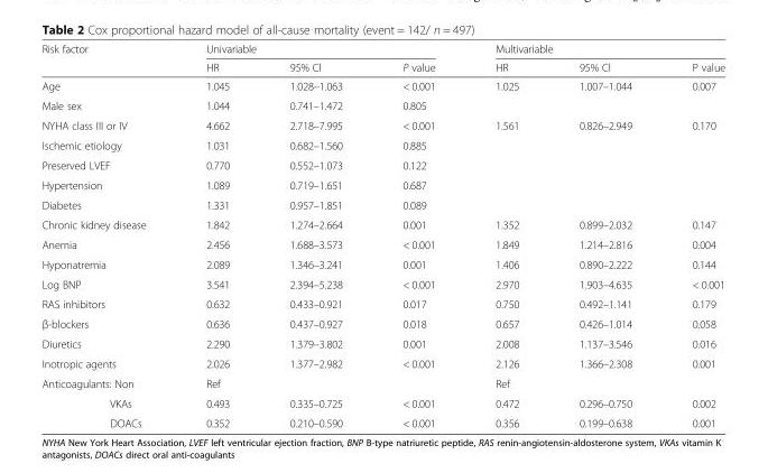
<table><thead><tr><td rowspan="2">Risk factor</td><td colspan="3">Univariable</td><td colspan="3">Multivariable</td></tr><tr><td>HR</td><td>95% Cl</td><td>P value</td><td>HR</td><td>95% Cl</td><td>P value</td></tr></thead><tbody><tr><td>Age</td><td>1.045</td><td>1.028–1.063</td><td>&lt; 0.001</td><td>1.025</td><td>1.007–1.044</td><td>0.007</td></tr><tr><td>Male sex</td><td>1.044</td><td>0.741–1.472</td><td>0.805</td><td></td><td></td><td></td></tr><tr><td>NYHA class III or IV</td><td>4.662</td><td>2.718–7.995</td><td>&lt; 0.001</td><td>1.561</td><td>0.826–2.949</td><td>0.170</td></tr><tr><td>Ischemic etiology</td><td>1.031</td><td>0.682–1.560</td><td>0.885</td><td></td><td></td><td></td></tr><tr><td>Preserved LVEF</td><td>0.770</td><td>0.552–1.073</td><td>0.122</td><td></td><td></td><td></td></tr><tr><td>Hypertension</td><td>1.089</td><td>0.719–1.651</td><td>0.687</td><td></td><td></td><td></td></tr><tr><td>Diabetes</td><td>1.331</td><td>0.957–1.851</td><td>0.089</td><td></td><td></td><td></td></tr><tr><td>Chronic kidney disease</td><td>1.842</td><td>1.274–2.664</td><td>0.001</td><td>1.352</td><td>0.899–2.032</td><td>0.147</td></tr><tr><td>Anemia</td><td>2.456</td><td>1.688–3.573</td><td>&lt; 0.001</td><td>1.849</td><td>1.214–2.816</td><td>0.004</td></tr><tr><td>Hyponatremia</td><td>2.089</td><td>1.346–3.241</td><td>0.001</td><td>1.406</td><td>0.890–2.222</td><td>0.144</td></tr><tr><td>Log BNP</td><td>3.541</td><td>2.394–5.238</td><td>&lt; 0.001</td><td>2.970</td><td>1.903–4.635</td><td>&lt; 0.001</td></tr><tr><td>RAS inhibitors</td><td>0.632</td><td>0.433–0.921</td><td>0.017</td><td>0.750</td><td>0.492–1.141</td><td>0.179</td></tr><tr><td>β-blockers</td><td>0.636</td><td>0.437–0.927</td><td>0.018</td><td>0.657</td><td>0.426–1.014</td><td>0.058</td></tr><tr><td>Diuretics</td><td>2.290</td><td>1.379–3.802</td><td>0.001</td><td>2.008</td><td>1.137–3.546</td><td>0.016</td></tr><tr><td>Inotropic agents</td><td>2.026</td><td>1.377–2.982</td><td>&lt; 0.001</td><td>2.126</td><td>1.366–2.308</td><td>0.001</td></tr><tr><td>Anticoagulants: Non</td><td>Ref</td><td></td><td></td><td>Ref</td><td></td><td></td></tr><tr><td>VKAs</td><td>0.493</td><td>0.335–0.725</td><td>&lt; 0.001</td><td>0.472</td><td>0.296–0.750</td><td>0.002</td></tr><tr><td>DOACs</td><td>0.352</td><td>0.210–0.590</td><td>&lt; 0.001</td><td>0.356</td><td>0.199–0.638</td><td>0.001</td></tr></tbody></table>